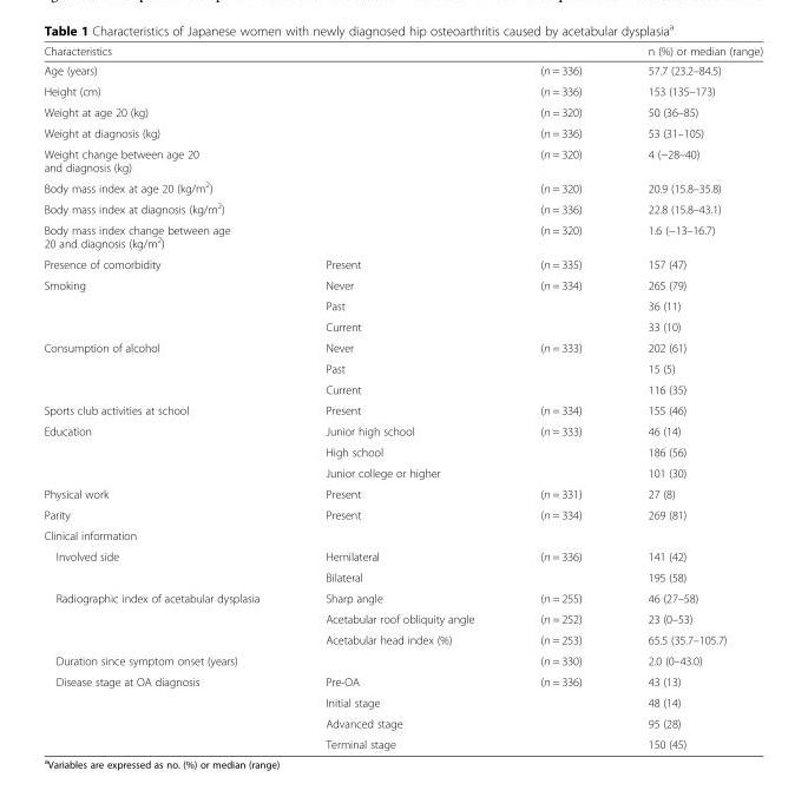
<table><thead><tr><td>Characteristics</td><td></td><td></td><td>n (%) or median (range)</td></tr></thead><tbody><tr><td>Age (years)</td><td></td><td>(n = 336)</td><td>57.7 (23.2–84.5)</td></tr><tr><td>Height (cm)</td><td></td><td>(n = 336)</td><td>153 (135–173)</td></tr><tr><td>Weight at age 20 (kg)</td><td></td><td>(n = 320)</td><td>50 (36–85)</td></tr><tr><td>Weight at diagnosis (kg)</td><td></td><td>(n = 336)</td><td>53 (31–105)</td></tr><tr><td>Weight change between age 20 and diagnosis (kg)</td><td></td><td>(n = 320)</td><td>4 (−28–40)</td></tr><tr><td>Body mass index at age 20 (kg/m<sup>2</sup>)</td><td></td><td>(n = 320)</td><td>20.9 (15.8–35.8)</td></tr><tr><td>Body mass index at diagnosis (kg/m<sup>2</sup>)</td><td></td><td>(n = 336)</td><td>22.8 (15.8–43.1)</td></tr><tr><td>Body mass index change between age 20 and diagnosis (kg/m<sup>2</sup>)</td><td></td><td>(n = 320)</td><td>1.6 (−13–16.7)</td></tr><tr><td>Presence of comorbidity</td><td>Present</td><td>(n = 335)</td><td>157 (47)</td></tr><tr><td rowspan="3">Smoking</td><td>Never</td><td>(n = 334)</td><td>265 (79)</td></tr><tr><td>Past</td><td></td><td>36 (11)</td></tr><tr><td>Current</td><td></td><td>33 (10)</td></tr><tr><td rowspan="3">Consumption of alcohol</td><td>Never</td><td>(n = 333)</td><td>202 (61)</td></tr><tr><td>Past</td><td></td><td>15 (5)</td></tr><tr><td>Current</td><td></td><td>116 (35)</td></tr><tr><td>Sports club activities at school</td><td>Present</td><td>(n = 334)</td><td>155 (46)</td></tr><tr><td rowspan="3">Education</td><td>Junior high school</td><td>(n = 333)</td><td>46 (14)</td></tr><tr><td>High school</td><td></td><td>186 (56)</td></tr><tr><td>Junior college or higher</td><td></td><td>101 (30)</td></tr><tr><td>Physical work</td><td>Present</td><td>(n = 331)</td><td>27 (8)</td></tr><tr><td>Parity</td><td>Present</td><td>(n = 334)</td><td>269 (81)</td></tr><tr><td colspan="4">Clinical information</td></tr><tr><td rowspan="2">Involved side</td><td>Hemilateral</td><td>(n = 336)</td><td>141 (42)</td></tr><tr><td>Bilateral</td><td></td><td>195 (58)</td></tr><tr><td rowspan="3">Radiographic index of acetabular dysplasia</td><td>Sharp angle</td><td>(n = 255)</td><td>46 (27–58)</td></tr><tr><td>Acetabular roof obliquity angle</td><td>(n = 252)</td><td>23 (0–53)</td></tr><tr><td>Acetabular head index (%)</td><td>(n = 253)</td><td>65.5 (35.7–105.7)</td></tr><tr><td>Duration since symptom onset (years)</td><td></td><td>(n = 330)</td><td>2.0 (0–43.0)</td></tr><tr><td rowspan="4">Disease stage at OA diagnosis</td><td>Pre-OA</td><td>(n = 336)</td><td>43 (13)</td></tr><tr><td>Initial stage</td><td></td><td>48 (14)</td></tr><tr><td>Advanced stage</td><td></td><td>95 (28)</td></tr><tr><td>Terminal stage</td><td></td><td>150 (45)</td></tr></tbody></table>